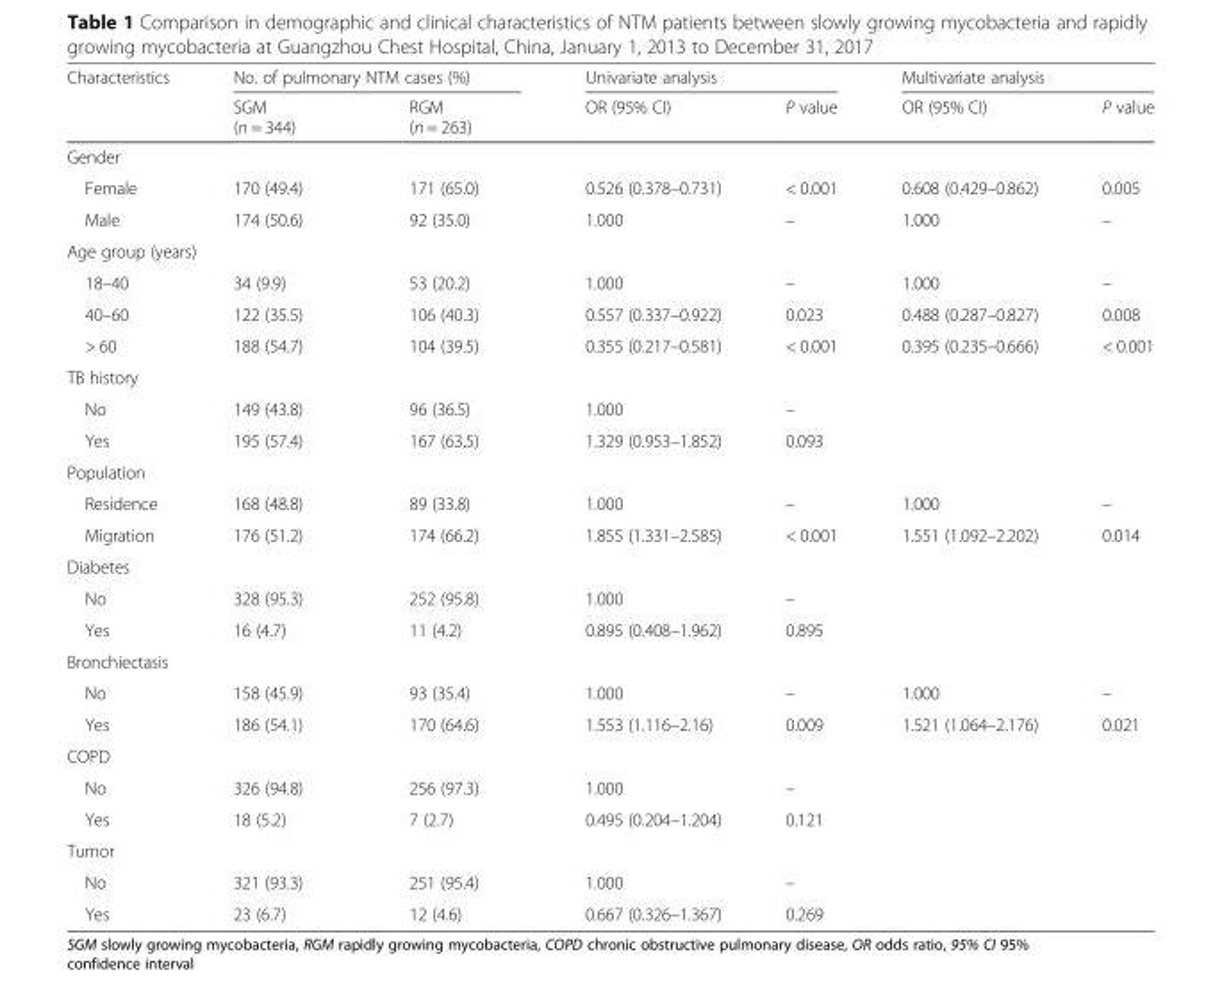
<table><thead><tr><td rowspan="2">Characteristics</td><td colspan="2">No. of pulmonary NTM cases (%)</td><td colspan="2">Univariate analysis</td><td colspan="2">Multivariate analysis</td></tr><tr><td>SGM (n = 344)</td><td>RGM (n = 263)</td><td>OR (95% CI)</td><td>P value</td><td>OR (95% CI)</td><td>P value</td></tr></thead><tbody><tr><td colspan="7">Gender</td></tr><tr><td>Female</td><td>170 (49.4)</td><td>171 (65.0)</td><td>0.526 (0.378–0.731)</td><td>&lt; 0.001</td><td>0.608 (0.429–0.862)</td><td>0.005</td></tr><tr><td>Male</td><td>174 (50.6)</td><td>92 (35.0)</td><td>1.000</td><td>–</td><td>1.000</td><td>–</td></tr><tr><td colspan="7">Age group (years)</td></tr><tr><td>18–40</td><td>34 (9.9)</td><td>53 (20.2)</td><td>1.000</td><td>–</td><td>1.000</td><td>–</td></tr><tr><td>40–60</td><td>122 (35.5)</td><td>106 (40.3)</td><td>0.557 (0.337–0.922)</td><td>0.023</td><td>0.488 (0.287–0.827)</td><td>0.008</td></tr><tr><td>&gt; 60</td><td>188 (54.7)</td><td>104 (39.5)</td><td>0.355 (0.217–0.581)</td><td>&lt; 0.001</td><td>0.395 (0.235–0.666)</td><td>&lt; 0.001</td></tr><tr><td colspan="7">TB history</td></tr><tr><td>No</td><td>149 (43.8)</td><td>96 (36.5)</td><td>1.000</td><td>–</td><td></td><td></td></tr><tr><td>Yes</td><td>195 (57.4)</td><td>167 (63.5)</td><td>1.329 (0.953–1.852)</td><td>0.093</td><td></td><td></td></tr><tr><td colspan="7">Population</td></tr><tr><td>Residence</td><td>168 (48.8)</td><td>89 (33.8)</td><td>1.000</td><td>–</td><td>1.000</td><td>–</td></tr><tr><td>Migration</td><td>176 (51.2)</td><td>174 (66.2)</td><td>1.855 (1.331–2.585)</td><td>&lt; 0.001</td><td>1.551 (1.092–2.202)</td><td>0.014</td></tr><tr><td colspan="7">Diabetes</td></tr><tr><td>No</td><td>328 (95.3)</td><td>252 (95.8)</td><td>1.000</td><td>–</td><td></td><td></td></tr><tr><td>Yes</td><td>16 (4.7)</td><td>11 (4.2)</td><td>0.895 (0.408–1.962)</td><td>0.895</td><td></td><td></td></tr><tr><td colspan="7">Bronchiectasis</td></tr><tr><td>No</td><td>158 (45.9)</td><td>93 (35.4)</td><td>1.000</td><td>–</td><td>1.000</td><td>–</td></tr><tr><td>Yes</td><td>186 (54.1)</td><td>170 (64.6)</td><td>1.553 (1.116–2.16)</td><td>0.009</td><td>1.521 (1.064–2.176)</td><td>0.021</td></tr><tr><td colspan="7">COPD</td></tr><tr><td>No</td><td>326 (94.8)</td><td>256 (97.3)</td><td>1.000</td><td>–</td><td></td><td></td></tr><tr><td>Yes</td><td>18 (5.2)</td><td>7 (2.7)</td><td>0.495 (0.204–1.204)</td><td>0.121</td><td></td><td></td></tr><tr><td colspan="7">Tumor</td></tr><tr><td>No</td><td>321 (93.3)</td><td>251 (95.4)</td><td>1.000</td><td>–</td><td></td><td></td></tr><tr><td>Yes</td><td>23 (6.7)</td><td>12 (4.6)</td><td>0.667 (0.326–1.367)</td><td>0.269</td><td></td><td></td></tr></tbody></table>